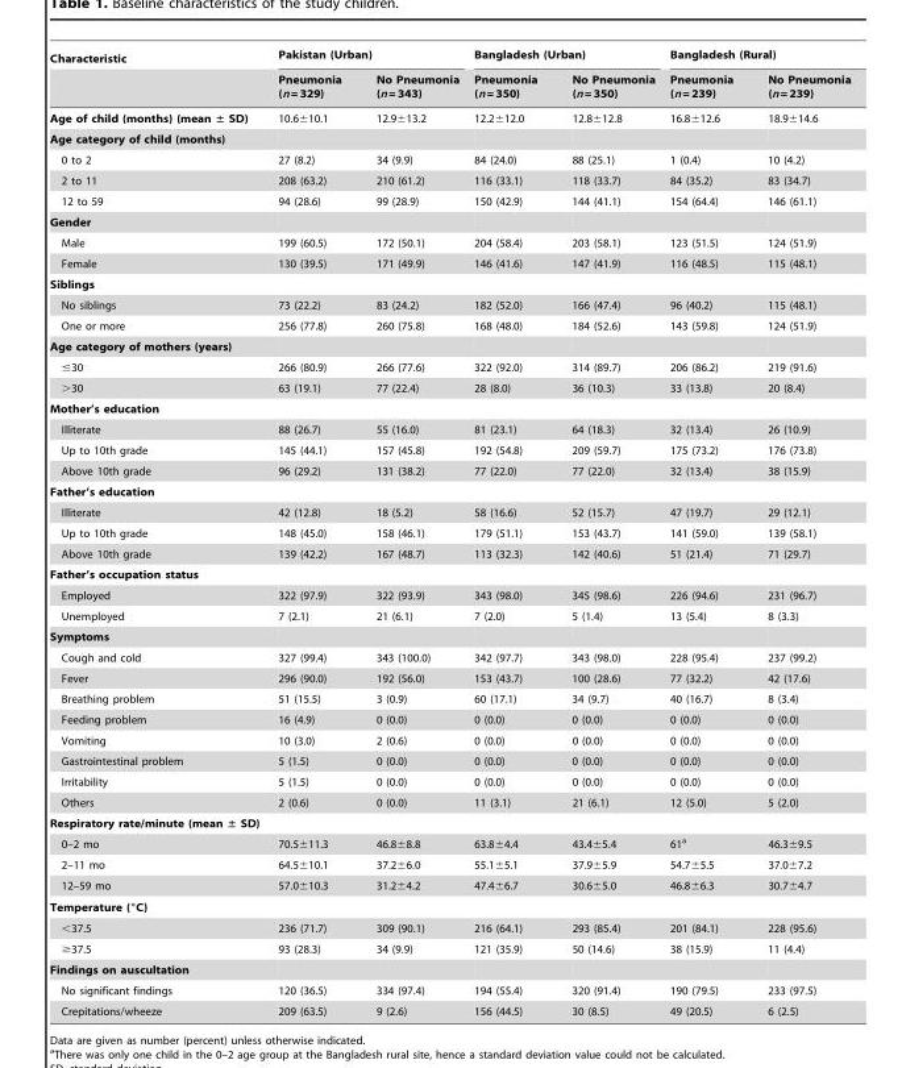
<table><thead><tr><td rowspan="2">Characteristic</td><td colspan="2">Pakistan (Urban)</td><td colspan="2">Bangladesh (Urban)</td><td colspan="2">Bangladesh (Rural)</td></tr><tr><td>Pneumonia (n = 329)</td><td>No Pneumonia (n = 343)</td><td>Pneumonia (n = 350)</td><td>No Pneumonia (n = 350)</td><td>Pneumonia (n = 239)</td><td>No Pneumonia (n = 239)</td></tr></thead><tbody><tr><td>Age of child (months) (mean ± SD)</td><td>10.6±10.1</td><td>12.9±13.2</td><td>12.2±12.0</td><td>12.8±12.8</td><td>16.8±12.6</td><td>18.9±14.6</td></tr><tr><td colspan="7">Age category of child (months)</td></tr><tr><td>0 to 2</td><td>27 (8.2)</td><td>34 (9.9)</td><td>84 (24.0)</td><td>88 (25.1)</td><td>1 (0.4)</td><td>10 (4.2)</td></tr><tr><td>2 to 11</td><td>208 (63.2)</td><td>210 (61.2)</td><td>116 (33.1)</td><td>118 (33.7)</td><td>84 (35.2)</td><td>83 (34.7)</td></tr><tr><td>12 to 59</td><td>94 (28.6)</td><td>99 (28.9)</td><td>150 (42.9)</td><td>144 (41.1)</td><td>154 (64.4)</td><td>146 (61.1)</td></tr><tr><td colspan="7">Gender</td></tr><tr><td>Male</td><td>199 (60.5)</td><td>172 (50.1)</td><td>204 (58.4)</td><td>203 (58.1)</td><td>123 (51.5)</td><td>124 (51.9)</td></tr><tr><td>Female</td><td>130 (39.5)</td><td>171 (49.9)</td><td>146 (41.6)</td><td>147 (41.9)</td><td>116 (48.5)</td><td>115 (48.1)</td></tr><tr><td colspan="7">Siblings</td></tr><tr><td>No siblings</td><td>73 (22.2)</td><td>83 (24.2)</td><td>182 (52.0)</td><td>166 (47.4)</td><td>96 (40.2)</td><td>115 (48.1)</td></tr><tr><td>One or more</td><td>256 (77.8)</td><td>260 (75.8)</td><td>168 (48.0)</td><td>184 (52.6)</td><td>143 (59.8)</td><td>124 (51.9)</td></tr><tr><td colspan="7">Age category of mothers (years)</td></tr><tr><td>≤30</td><td>266 (80.9)</td><td>266 (77.6)</td><td>322 (92.0)</td><td>314 (89.7)</td><td>206 (86.2)</td><td>219 (91.6)</td></tr><tr><td>&gt;30</td><td>63 (19.1)</td><td>77 (22.4)</td><td>28 (8.0)</td><td>36 (10.3)</td><td>33 (13.8)</td><td>20 (8.4)</td></tr><tr><td colspan="7">Mother’s education</td></tr><tr><td>Illiterate</td><td>88 (26.7)</td><td>55 (16.0)</td><td>81 (23.1)</td><td>64 (18.3)</td><td>32 (13.4)</td><td>26 (10.9)</td></tr><tr><td>Up to 10th grade</td><td>145 (44.1)</td><td>157 (45.8)</td><td>192 (54.8)</td><td>209 (59.7)</td><td>175 (73.2)</td><td>176 (73.8)</td></tr><tr><td>Above 10th grade</td><td>96 (29.2)</td><td>131 (38.2)</td><td>77 (22.0)</td><td>77 (22.0)</td><td>32 (13.4)</td><td>38 (15.9)</td></tr><tr><td colspan="7">Father’s education</td></tr><tr><td>Illiterate</td><td>42 (12.8)</td><td>18 (5.2)</td><td>58 (16.6)</td><td>52 (15.7)</td><td>47 (19.7)</td><td>29 (12.1)</td></tr><tr><td>Up to 10th grade</td><td>148 (45.0)</td><td>158 (46.1)</td><td>179 (51.1)</td><td>153 (43.7)</td><td>141 (59.0)</td><td>139 (58.1)</td></tr><tr><td>Above 10th grade</td><td>139 (42.2)</td><td>167 (48.7)</td><td>113 (32.3)</td><td>142 (40.6)</td><td>51 (21.4)</td><td>71 (29.7)</td></tr><tr><td colspan="7">Father’s occupation status</td></tr><tr><td>Employed</td><td>322 (97.9)</td><td>322 (93.9)</td><td>343 (98.0)</td><td>345 (98.6)</td><td>226 (94.6)</td><td>231 (96.7)</td></tr><tr><td>Unemployed</td><td>7 (2.1)</td><td>21 (6.1)</td><td>7 (2.0)</td><td>5 (1.4)</td><td>13 (5.4)</td><td>8 (3.3)</td></tr><tr><td colspan="7">Symptoms</td></tr><tr><td>Cough and cold</td><td>327 (99.4)</td><td>343 (100.0)</td><td>342 (97.7)</td><td>343 (98.0)</td><td>228 (95.4)</td><td>237 (99.2)</td></tr><tr><td>Fever</td><td>296 (90.0)</td><td>192 (56.0)</td><td>153 (43.7)</td><td>100 (28.6)</td><td>77 (32.2)</td><td>42 (17.6)</td></tr><tr><td>Breathing problem</td><td>51 (15.5)</td><td>3 (0.9)</td><td>60 (17.1)</td><td>34 (9.7)</td><td>40 (16.7)</td><td>8 (3.4)</td></tr><tr><td>Feeding problem</td><td>16 (4.9)</td><td>0 (0.0)</td><td>0 (0.0)</td><td>0 (0.0)</td><td>0 (0.0)</td><td>0 (0.0)</td></tr><tr><td>Vomiting</td><td>10 (3.0)</td><td>2 (0.6)</td><td>0 (0.0)</td><td>0 (0.0)</td><td>0 (0.0)</td><td>0 (0.0)</td></tr><tr><td>Gastrointestinal problem</td><td>5 (1.5)</td><td>0 (0.0)</td><td>0 (0.0)</td><td>0 (0.0)</td><td>0 (0.0)</td><td>0 (0.0)</td></tr><tr><td>Irritability</td><td>5 (1.5)</td><td>0 (0.0)</td><td>0 (0.0)</td><td>0 (0.0)</td><td>0 (0.0)</td><td>0 (0.0)</td></tr><tr><td>Others</td><td>2 (0.6)</td><td>0 (0.0)</td><td>11 (3.1)</td><td>21 (6.1)</td><td>12 (5.0)</td><td>5 (2.0)</td></tr><tr><td colspan="7">Respiratory rate/minute (mean ± SD)</td></tr><tr><td>0–2 mo</td><td>70.5±11.3</td><td>46.8±8.8</td><td>63.8±4.4</td><td>43.4±5.4</td><td>61<sup>a</sup></td><td>46.3±9.5</td></tr><tr><td>2–11 mo</td><td>64.5±10.1</td><td>37.2±6.0</td><td>55.1±5.1</td><td>37.9±5.9</td><td>54.7±5.5</td><td>37.0±7.2</td></tr><tr><td>12–59 mo</td><td>57.0±10.3</td><td>31.2±4.2</td><td>47.4±6.7</td><td>30.6±5.0</td><td>46.8±6.3</td><td>30.7±4.7</td></tr><tr><td colspan="7">Temperature (°C)</td></tr><tr><td>&lt;37.5</td><td>236 (71.7)</td><td>309 (90.1)</td><td>216 (64.1)</td><td>293 (85.4)</td><td>201 (84.1)</td><td>228 (95.6)</td></tr><tr><td>≥37.5</td><td>93 (28.3)</td><td>34 (9.9)</td><td>121 (35.9)</td><td>50 (14.6)</td><td>38 (15.9)</td><td>11 (4.4)</td></tr><tr><td colspan="7">Findings on auscultation</td></tr><tr><td>No significant findings</td><td>120 (36.5)</td><td>334 (97.4)</td><td>194 (55.4)</td><td>320 (91.4)</td><td>190 (79.5)</td><td>233 (97.5)</td></tr><tr><td>Crepitations/wheeze</td><td>209 (63.5)</td><td>9 (2.6)</td><td>156 (44.5)</td><td>30 (8.5)</td><td>49 (20.5)</td><td>6 (2.5)</td></tr></tbody></table>